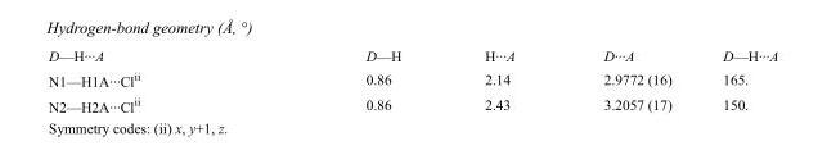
<table><tbody><tr><td>D—H···A</td><td>D—H</td><td>H···A</td><td>D···A</td><td>D—H···A</td></tr><tr><td>N1—H1A···Cl<sup>ii</sup></td><td>0.86</td><td>2.14</td><td>2.9772 (16)</td><td>165.</td></tr><tr><td>N2—H2A···Cl<sup>ii</sup></td><td>0.86</td><td>2.43</td><td>3.2057 (17)</td><td>150.</td></tr></tbody></table>